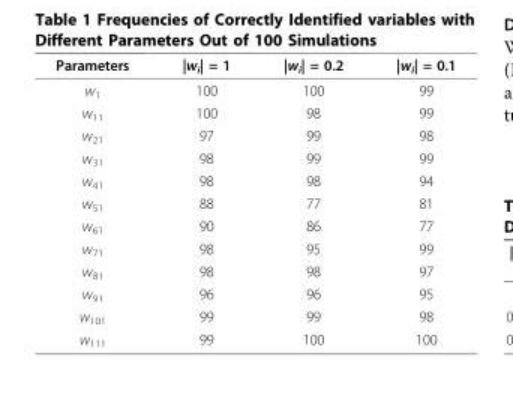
<table><thead><tr><td>Parameters</td><td>|w<sub>i</sub>| = 1</td><td>|w<sub>i</sub>| = 0.2</td><td>|w<sub>i</sub>| = 0.1</td></tr></thead><tbody><tr><td>w<sub>1</sub></td><td>100</td><td>100</td><td>99</td></tr><tr><td>w<sub>11</sub></td><td>100</td><td>98</td><td>99</td></tr><tr><td>w<sub>21</sub></td><td>97</td><td>99</td><td>98</td></tr><tr><td>w<sub>31</sub></td><td>98</td><td>99</td><td>99</td></tr><tr><td>w<sub>41</sub></td><td>98</td><td>98</td><td>94</td></tr><tr><td>w<sub>51</sub></td><td>88</td><td>77</td><td>81</td></tr><tr><td>w<sub>61</sub></td><td>90</td><td>86</td><td>77</td></tr><tr><td>w<sub>71</sub></td><td>98</td><td>95</td><td>99</td></tr><tr><td>w<sub>81</sub></td><td>98</td><td>98</td><td>97</td></tr><tr><td>w<sub>91</sub></td><td>96</td><td>96</td><td>95</td></tr><tr><td>w<sub>101</sub></td><td>99</td><td>99</td><td>98</td></tr><tr><td>w<sub>111</sub></td><td>99</td><td>100</td><td>100</td></tr></tbody></table>